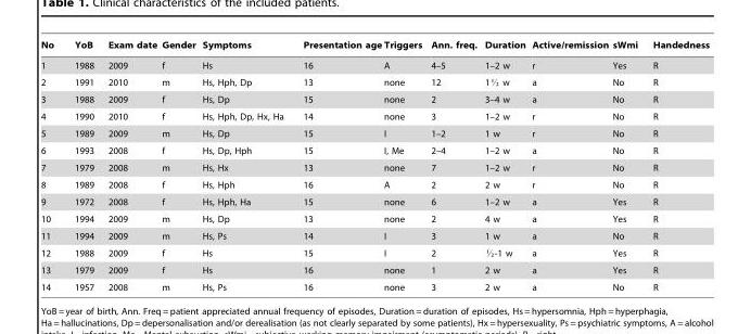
<table><thead><tr><td>No</td><td>YoB</td><td>Exam date</td><td>Gender</td><td>Symptoms</td><td>Presentation age</td><td>Triggers</td><td>Ann. freq.</td><td>Duration</td><td>Active/remission</td><td>sWmi</td><td>Handedness</td></tr></thead><tbody><tr><td>1</td><td>1988</td><td>2009</td><td>f</td><td>Hs</td><td>16</td><td>A</td><td>4–5</td><td>1–2 w</td><td>r</td><td>Yes</td><td>R</td></tr><tr><td>2</td><td>1991</td><td>2010</td><td>m</td><td>Hs, Hph, Dp</td><td>13</td><td>none</td><td>12</td><td>1K w</td><td>a</td><td>No</td><td>R</td></tr><tr><td>3</td><td>1988</td><td>2009</td><td>f</td><td>Hs, Dp</td><td>15</td><td>none</td><td>2</td><td>3–4 w</td><td>a</td><td>No</td><td>R</td></tr><tr><td>4</td><td>1990</td><td>2010</td><td>f</td><td>Hs, Hph, Dp, Hx, Ha</td><td>14</td><td>none</td><td>3</td><td>1–2 w</td><td>r</td><td>No</td><td>R</td></tr><tr><td>5</td><td>1989</td><td>2009</td><td>m</td><td>Hs, Dp</td><td>15</td><td>I</td><td>1–2</td><td>1 w</td><td>r</td><td>No</td><td>R</td></tr><tr><td>6</td><td>1993</td><td>2008</td><td>f</td><td>Hs, Dp, Hph</td><td>15</td><td>I, Me</td><td>2–4</td><td>1–2 w</td><td>a</td><td>No</td><td>R</td></tr><tr><td>7</td><td>1979</td><td>2008</td><td>m</td><td>Hs, Hx</td><td>13</td><td>none</td><td>7</td><td>1–2 w</td><td>r</td><td>No</td><td>R</td></tr><tr><td>8</td><td>1989</td><td>2008</td><td>f</td><td>Hs, Hph</td><td>16</td><td>A</td><td>2</td><td>2 w</td><td>r</td><td>No</td><td>R</td></tr><tr><td>9</td><td>1972</td><td>2008</td><td>f</td><td>Hs, Hph, Ha</td><td>15</td><td>none</td><td>6</td><td>1–2 w</td><td>a</td><td>Yes</td><td>R</td></tr><tr><td>10</td><td>1994</td><td>2009</td><td>m</td><td>Hs, Dp</td><td>13</td><td>none</td><td>2</td><td>4 w</td><td>a</td><td>Yes</td><td>R</td></tr><tr><td>11</td><td>1994</td><td>2009</td><td>m</td><td>Hs, Ps</td><td>14</td><td>I</td><td>3</td><td>1 w</td><td>a</td><td>No</td><td>R</td></tr><tr><td>12</td><td>1988</td><td>2009</td><td>f</td><td>Hs</td><td>15</td><td>I</td><td>2</td><td>K-1 w</td><td>a</td><td>Yes</td><td>R</td></tr><tr><td>13</td><td>1979</td><td>2009</td><td>f</td><td>Hs</td><td>16</td><td>none</td><td>1</td><td>2 w</td><td>a</td><td>Yes</td><td>R</td></tr><tr><td>14</td><td>1957</td><td>2008</td><td>m</td><td>Hs, Ps</td><td>16</td><td>none</td><td>3</td><td>2 w</td><td>a</td><td>No</td><td>R</td></tr></tbody></table>